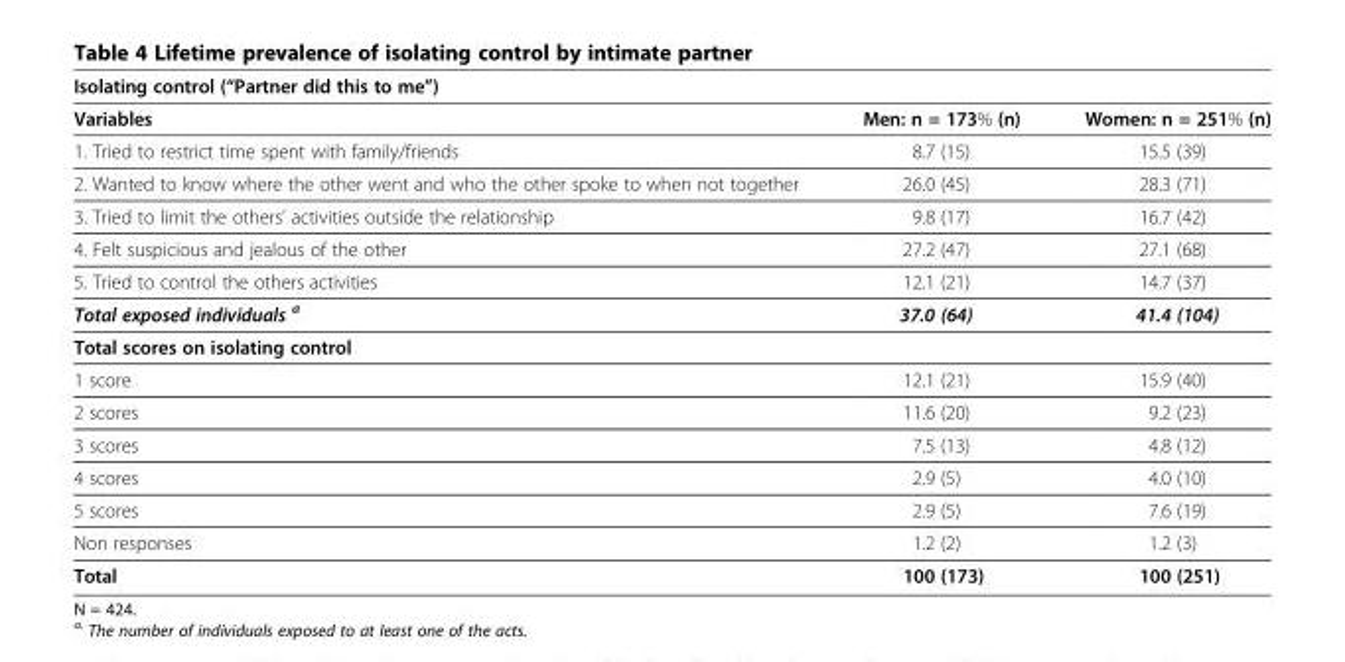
<table><thead><tr><td colspan="3">Isolating control (“Partner did this to me”)</td></tr><tr><td>Variables</td><td>Men: n = 173% (n)</td><td>Women: n = 251% (n)</td></tr></thead><tbody><tr><td>1. Tried to restrict time spent with family/friends</td><td>8.7 (15)</td><td>15.5 (39)</td></tr><tr><td>2. Wanted to know where the other went and who the other spoke to when not together</td><td>26.0 (45)</td><td>28.3 (71)</td></tr><tr><td>3. Tried to limit the others’ activities outside the relationship</td><td>9.8 (17)</td><td>16.7 (42)</td></tr><tr><td>4. Felt suspicious and jealous of the other</td><td>27.2 (47)</td><td>27.1 (68)</td></tr><tr><td>5. Tried to control the others activities</td><td>12.1 (21)</td><td>14.7 (37)</td></tr><tr><td>Total exposed individuals <sup>a</sup></td><td>37.0 (64)</td><td>41.4 (104)</td></tr><tr><td colspan="3">Total scores on isolating control</td></tr><tr><td>1 score</td><td>12.1 (21)</td><td>15.9 (40)</td></tr><tr><td>2 scores</td><td>11.6 (20)</td><td>9.2 (23)</td></tr><tr><td>3 scores</td><td>7.5 (13)</td><td>4.8 (12)</td></tr><tr><td>4 scores</td><td>2.9 (5)</td><td>4.0 (10)</td></tr><tr><td>5 scores</td><td>2.9 (5)</td><td>7.6 (19)</td></tr><tr><td>Non responses</td><td>1.2 (2)</td><td>1.2 (3)</td></tr><tr><td>Total</td><td>100 (173)</td><td>100 (251)</td></tr></tbody></table>